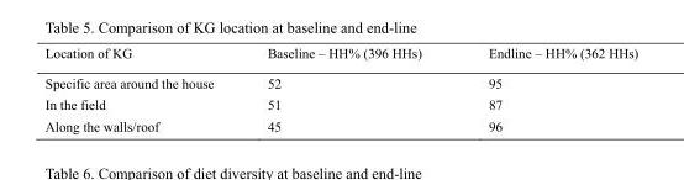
<table><thead><tr><td>Location of KG</td><td>Baseline – HH% (396 HHs)</td><td>Endline – HH% (362 HHs)</td></tr></thead><tbody><tr><td>Specific area around the house</td><td>52</td><td>95</td></tr><tr><td>In the field</td><td>51</td><td>87</td></tr><tr><td>Along the walls/roof</td><td>45</td><td>96</td></tr></tbody></table>